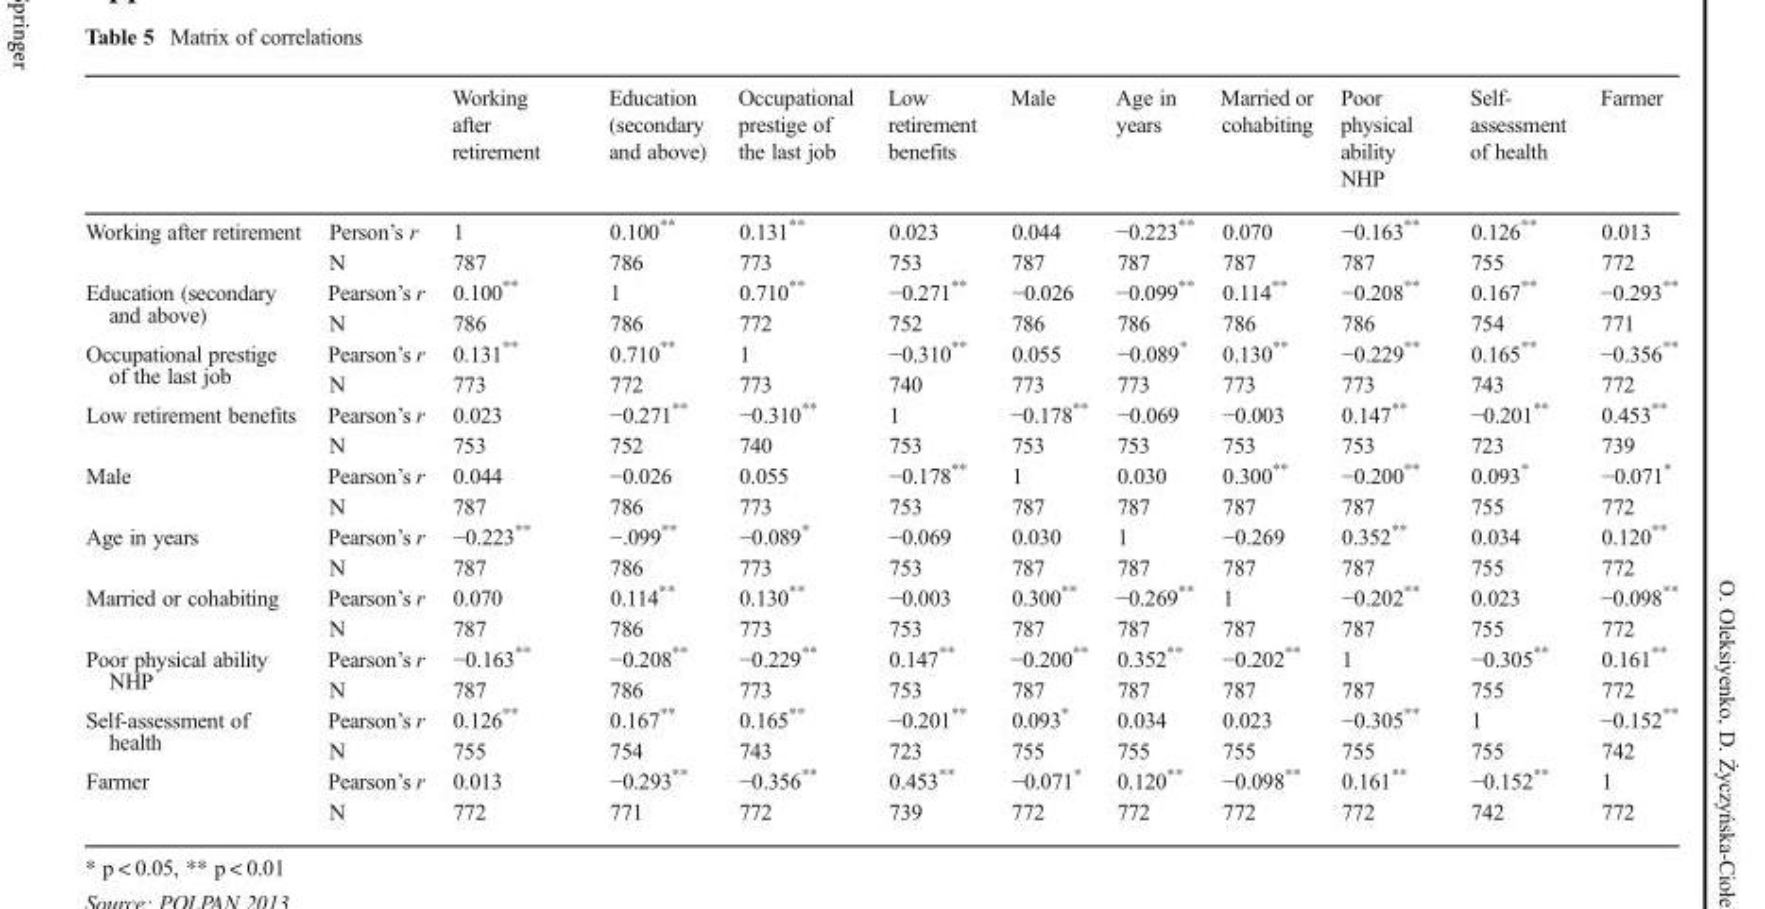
<table><thead><tr><td></td><td></td><td>Working after retirement</td><td>Education (secondary and above)</td><td>Occupational prestige of the last job</td><td>Low retirement benefits</td><td>Male</td><td>Age in years</td><td>Married or cohabiting</td><td>Poor physical ability NHP</td><td>Self- assessment of health</td><td>Farmer</td></tr></thead><tbody><tr><td rowspan="2">Working after retirement</td><td>Person’s r</td><td>1</td><td>0.100**</td><td>0.131**</td><td>0.023</td><td>0.044</td><td>−0.223**</td><td>0.070</td><td>−0.163**</td><td>0.126**</td><td>0.013</td></tr><tr><td>N</td><td>787</td><td>786</td><td>773</td><td>753</td><td>787</td><td>787</td><td>787</td><td>787</td><td>755</td><td>772</td></tr><tr><td rowspan="2">Education (secondary and above)</td><td>Pearson’s r</td><td>0.100**</td><td>1</td><td>0.710**</td><td>−0.271**</td><td>−0.026</td><td>−0.099**</td><td>0.114**</td><td>−0.208**</td><td>0.167**</td><td>−0.293**</td></tr><tr><td>N</td><td>786</td><td>786</td><td>772</td><td>752</td><td>786</td><td>786</td><td>786</td><td>786</td><td>754</td><td>771</td></tr><tr><td rowspan="2">Occupational prestige of the last job</td><td>Pearson’s r</td><td>0.131**</td><td>0.710**</td><td>1</td><td>−0.310**</td><td>0.055</td><td>−0.089*</td><td>0.130**</td><td>−0.229**</td><td>0.165**</td><td>−0.356**</td></tr><tr><td>N</td><td>773</td><td>772</td><td>773</td><td>740</td><td>773</td><td>773</td><td>773</td><td>773</td><td>743</td><td>772</td></tr><tr><td rowspan="2">Low retirement benefits</td><td>Pearson’s r</td><td>0.023</td><td>−0.271**</td><td>−0.310**</td><td>1</td><td>−0.178**</td><td>−0.069</td><td>−0.003</td><td>0.147**</td><td>−0.201**</td><td>0.453**</td></tr><tr><td>N</td><td>753</td><td>752</td><td>740</td><td>753</td><td>753</td><td>753</td><td>753</td><td>753</td><td>723</td><td>739</td></tr><tr><td rowspan="2">Male</td><td>Pearson’s r</td><td>0.044</td><td>−0.026</td><td>0.055</td><td>−0.178**</td><td>1</td><td>0.030</td><td>0.300**</td><td>−0.200**</td><td>0.093*</td><td>−0.071*</td></tr><tr><td>N</td><td>787</td><td>786</td><td>773</td><td>753</td><td>787</td><td>787</td><td>787</td><td>787</td><td>755</td><td>772</td></tr><tr><td rowspan="2">Age in years</td><td>Pearson’s r</td><td>−0.223**</td><td>−.099**</td><td>−0.089*</td><td>−0.069</td><td>0.030</td><td>1</td><td>−0.269</td><td>0.352**</td><td>0.034</td><td>0.120**</td></tr><tr><td>N</td><td>787</td><td>786</td><td>773</td><td>753</td><td>787</td><td>787</td><td>787</td><td>787</td><td>755</td><td>772</td></tr><tr><td rowspan="2">Married or cohabiting</td><td>Pearson’s r</td><td>0.070</td><td>0.114**</td><td>0.130**</td><td>−0.003</td><td>0.300**</td><td>−0.269**</td><td>1</td><td>−0.202**</td><td>0.023</td><td>−0.098**</td></tr><tr><td>N</td><td>787</td><td>786</td><td>773</td><td>753</td><td>787</td><td>787</td><td>787</td><td>787</td><td>755</td><td>772</td></tr><tr><td rowspan="2">Poor physical ability NHP</td><td>Pearson’s r</td><td>−0.163**</td><td>−0.208**</td><td>−0.229**</td><td>0.147**</td><td>−0.200**</td><td>0.352**</td><td>−0.202**</td><td>1</td><td>−0.305**</td><td>0.161**</td></tr><tr><td>N</td><td>787</td><td>786</td><td>773</td><td>753</td><td>787</td><td>787</td><td>787</td><td>787</td><td>755</td><td>772</td></tr><tr><td rowspan="2">Self-assessment of health</td><td>Pearson’s r</td><td>0.126**</td><td>0.167**</td><td>0.165**</td><td>−0.201**</td><td>0.093*</td><td>0.034</td><td>0.023</td><td>−0.305**</td><td>1</td><td>−0.152**</td></tr><tr><td>N</td><td>755</td><td>754</td><td>743</td><td>723</td><td>755</td><td>755</td><td>755</td><td>755</td><td>755</td><td>742</td></tr><tr><td rowspan="2">Farmer</td><td>Pearson’s r</td><td>0.013</td><td>−0.293**</td><td>−0.356**</td><td>0.453**</td><td>−0.071*</td><td>0.120**</td><td>−0.098**</td><td>0.161**</td><td>−0.152**</td><td>1</td></tr><tr><td>N</td><td>772</td><td>771</td><td>772</td><td>739</td><td>772</td><td>772</td><td>772</td><td>772</td><td>742</td><td>772</td></tr></tbody></table>